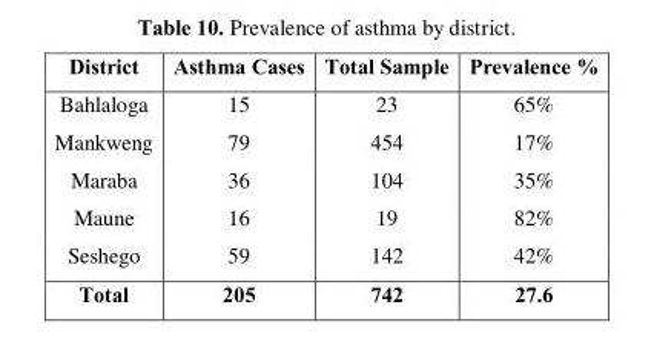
<table><thead><tr><td>District</td><td>Asthma Cases</td><td>Total Sample</td><td>Prevalence %</td></tr></thead><tbody><tr><td>Bahlaloga</td><td>15</td><td>23</td><td>65%</td></tr><tr><td>Mankweng</td><td>79</td><td>454</td><td>17%</td></tr><tr><td>Maraba</td><td>36</td><td>104</td><td>35%</td></tr><tr><td>Maune</td><td>16</td><td>19</td><td>82%</td></tr><tr><td>Seshego</td><td>59</td><td>142</td><td>42%</td></tr><tr><td>Total</td><td>205</td><td>742</td><td>27.6</td></tr></tbody></table>